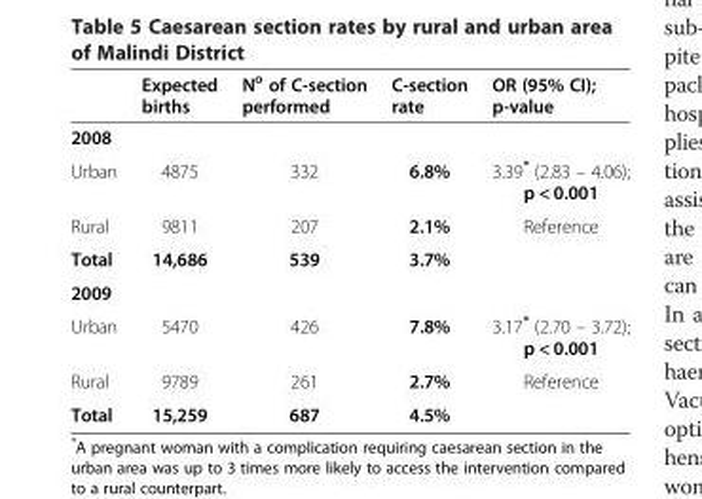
<table><thead><tr><td></td><td>Expected births</td><td>N<sup>o</sup> of C-section performed</td><td>C-section rate</td><td>OR (95% CI); p-value</td></tr></thead><tbody><tr><td colspan="5">2008</td></tr><tr><td>Urban</td><td>4875</td><td>332</td><td>6.8%</td><td>3.39* (2.83 – 4.06); p &lt; 0.001</td></tr><tr><td>Rural</td><td>9811</td><td>207</td><td>2.1%</td><td>Reference</td></tr><tr><td>Total</td><td>14,686</td><td>539</td><td>3.7%</td><td></td></tr><tr><td colspan="5">2009</td></tr><tr><td>Urban</td><td>5470</td><td>426</td><td>7.8%</td><td>3.17* (2.70 – 3.72); p &lt; 0.001</td></tr><tr><td>Rural</td><td>9789</td><td>261</td><td>2.7%</td><td>Reference</td></tr><tr><td>Total</td><td>15,259</td><td>687</td><td>4.5%</td><td></td></tr></tbody></table>